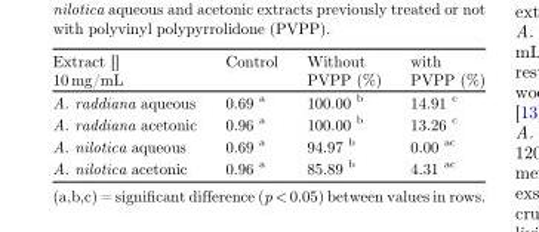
<table><thead><tr><td>Extract [] 10 mg/mL</td><td>Control</td><td>Without PVPP (%)</td><td>with PVPP (%)</td></tr></thead><tbody><tr><td>A. raddiana aqueous</td><td>0.69 <sup>a</sup></td><td>100.00 <sup>b</sup></td><td>14.91 <sup>c</sup></td></tr><tr><td>A. raddiana acetonic</td><td>0.96 <sup>a</sup></td><td>100.00 <sup>b</sup></td><td>13.26 <sup>c</sup></td></tr><tr><td>A. nilotica aqueous</td><td>0.69 <sup>a</sup></td><td>94.97 <sup>b</sup></td><td>0.00 <sup>ac</sup></td></tr><tr><td>A. nilotica acetonic</td><td>0.96 <sup>a</sup></td><td>85.89 <sup>b</sup></td><td>4.31 <sup>ac</sup></td></tr></tbody></table>